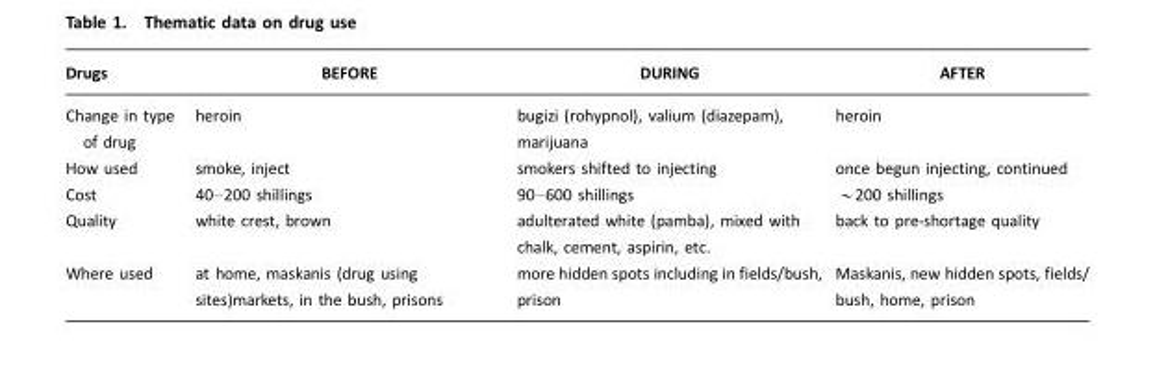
<table><thead><tr><td>Drugs</td><td>BEFORE</td><td>DURING</td><td>AFTER</td></tr></thead><tbody><tr><td>Change in type of drug</td><td>heroin</td><td>bugizi (rohypnol), valium (diazepam), marijuana</td><td>heroin</td></tr><tr><td>How used</td><td>smoke, inject</td><td>smokers shifted to injecting</td><td>once begun injecting, continued</td></tr><tr><td>Cost</td><td>40–200 shillings</td><td>90–600 shillings</td><td>~200 shillings</td></tr><tr><td>Quality</td><td>white crest, brown</td><td>adulterated white (pamba), mixed with chalk, cement, aspirin, etc.</td><td>back to pre-shortage quality</td></tr><tr><td>Where used</td><td>at home, maskanis (drug using sites)markets, in the bush, prisons</td><td>more hidden spots including in fields/bush, prison</td><td>Maskanis, new hidden spots, fields/ bush, home, prison</td></tr></tbody></table>